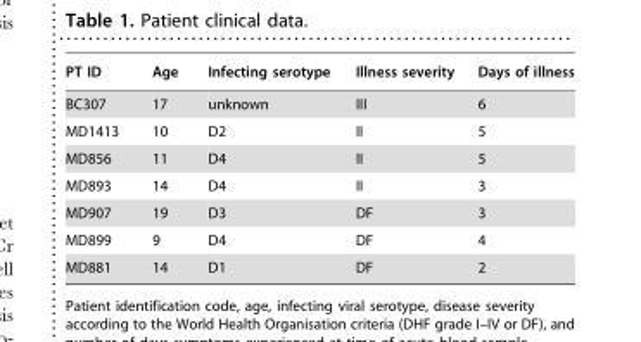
<table><thead><tr><td>PT ID</td><td>Age</td><td>Infecting serotype</td><td>Illness severity</td><td>Days of illness</td></tr></thead><tbody><tr><td>BC307</td><td>17</td><td>unknown</td><td>III</td><td>6</td></tr><tr><td>MD1413</td><td>10</td><td>D2</td><td>II</td><td>5</td></tr><tr><td>MD856</td><td>11</td><td>D4</td><td>II</td><td>5</td></tr><tr><td>MD893</td><td>14</td><td>D4</td><td>II</td><td>3</td></tr><tr><td>MD907</td><td>19</td><td>D3</td><td>DF</td><td>3</td></tr><tr><td>MD899</td><td>9</td><td>D4</td><td>DF</td><td>4</td></tr><tr><td>MD881</td><td>14</td><td>D1</td><td>DF</td><td>2</td></tr></tbody></table>